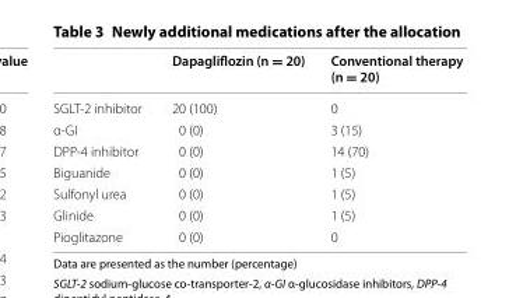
<table><thead><tr><td></td><td>Dapagliflozin (n = 20)</td><td>Conventional therapy (n = 20)</td></tr></thead><tbody><tr><td>SGLT-2 inhibitor</td><td>20 (100)</td><td>0</td></tr><tr><td>α-GI</td><td>0 (0)</td><td>3 (15)</td></tr><tr><td>DPP-4 inhibitor</td><td>0 (0)</td><td>14 (70)</td></tr><tr><td>Biguanide</td><td>0 (0)</td><td>1 (5)</td></tr><tr><td>Sulfonyl urea</td><td>0 (0)</td><td>1 (5)</td></tr><tr><td>Glinide</td><td>0 (0)</td><td>1 (5)</td></tr><tr><td>Pioglitazone</td><td>0 (0)</td><td>0</td></tr></tbody></table>